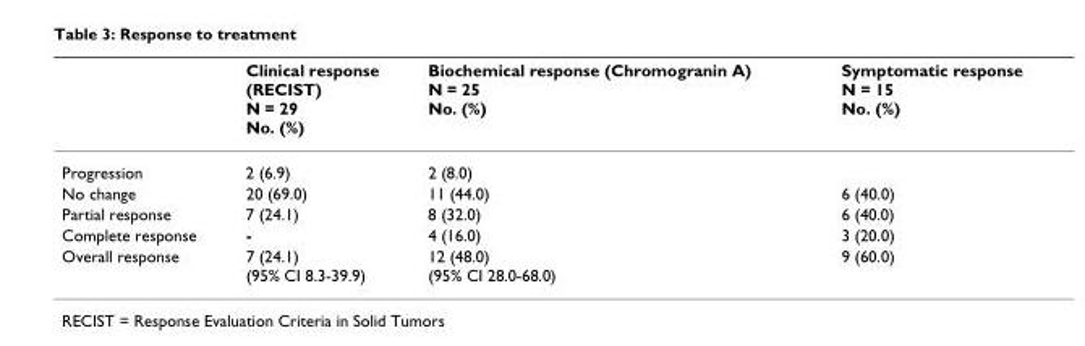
<table><thead><tr><td></td><td>Clinical response (RECIST) N = 29 No. (%)</td><td>Biochemical response (Chromogranin A) N = 25 No. (%)</td><td>Symptomatic response N = 15 No. (%)</td></tr></thead><tbody><tr><td>Progression</td><td>2 (6.9)</td><td>2 (8.0)</td><td></td></tr><tr><td>No change</td><td>20 (69.0)</td><td>11 (44.0)</td><td>6 (40.0)</td></tr><tr><td>Partial response</td><td>7 (24.1)</td><td>8 (32.0)</td><td>6 (40.0)</td></tr><tr><td>Complete response</td><td>-</td><td>4 (16.0)</td><td>3 (20.0)</td></tr><tr><td>Overall response</td><td>7 (24.1) (95% CI 8.3-39.9)</td><td>12 (48.0) (95% CI 28.0-68.0)</td><td>9 (60.0)</td></tr></tbody></table>